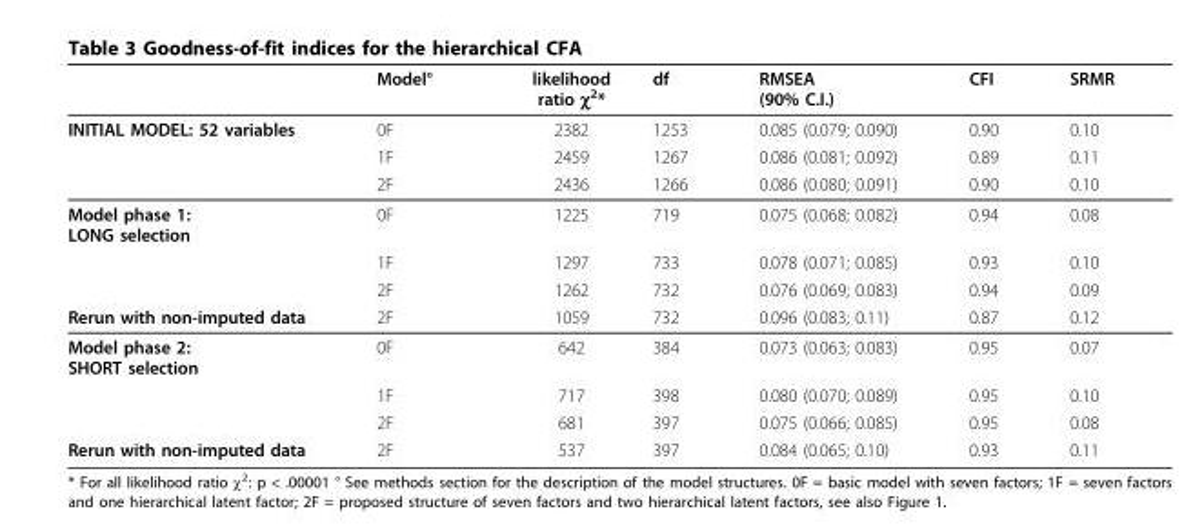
<table><thead><tr><td></td><td>Model°</td><td>likelihood ratio χ<sup>2</sup>*</td><td>df</td><td>RMSEA (90% C.I.)</td><td>CFI</td><td>SRMR</td></tr></thead><tbody><tr><td rowspan="3">INITIAL MODEL: 52 variables</td><td>0F</td><td>2382</td><td>1253</td><td>0.085 (0.079; 0.090)</td><td>0.90</td><td>0.10</td></tr><tr><td>1F</td><td>2459</td><td>1267</td><td>0.086 (0.081; 0.092)</td><td>0.89</td><td>0.11</td></tr><tr><td>2F</td><td>2436</td><td>1266</td><td>0.086 (0.080; 0.091)</td><td>0.90</td><td>0.10</td></tr><tr><td rowspan="3">Model phase 1: LONG selection</td><td>0F</td><td>1225</td><td>719</td><td>0.075 (0.068; 0.082)</td><td>0.94</td><td>0.08</td></tr><tr><td>1F</td><td>1297</td><td>733</td><td>0.078 (0.071; 0.085)</td><td>0.93</td><td>0.10</td></tr><tr><td>2F</td><td>1262</td><td>732</td><td>0.076 (0.069; 0.083)</td><td>0.94</td><td>0.09</td></tr><tr><td>Rerun with non-imputed data</td><td>2F</td><td>1059</td><td>732</td><td>0.096 (0.083; 0.11)</td><td>0.87</td><td>0.12</td></tr><tr><td rowspan="3">Model phase 2: SHORT selection</td><td>0F</td><td>642</td><td>384</td><td>0.073 (0.063; 0.083)</td><td>0.95</td><td>0.07</td></tr><tr><td>1F</td><td>717</td><td>398</td><td>0.080 (0.070; 0.089)</td><td>0.95</td><td>0.10</td></tr><tr><td>2F</td><td>681</td><td>397</td><td>0.075 (0.066; 0.085)</td><td>0.95</td><td>0.08</td></tr><tr><td>Rerun with non-imputed data</td><td>2F</td><td>537</td><td>397</td><td>0.084 (0.065; 0.10)</td><td>0.93</td><td>0.11</td></tr></tbody></table>